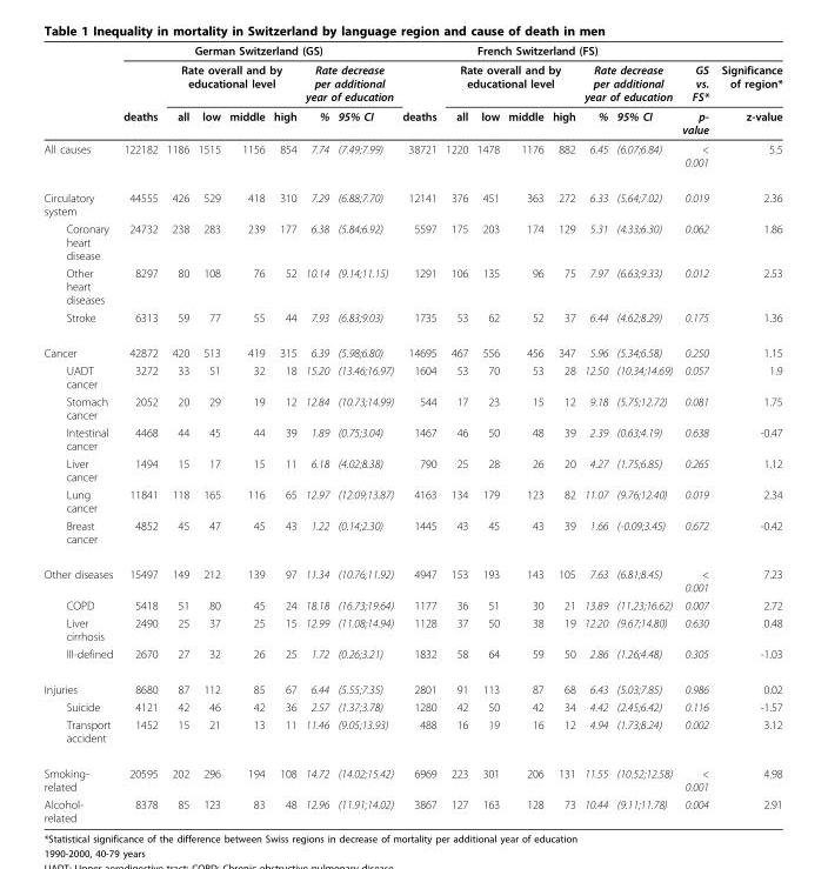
<table><thead><tr><td rowspan="3"></td><td colspan="7">German Switzerland (GS)</td><td colspan="7">French Switzerland (FS)</td><td rowspan="3">GS vs. FS* p- value</td><td rowspan="3">Significance of region* z-value</td></tr><tr><td rowspan="2">deaths</td><td colspan="4">Rate overall and by educational level</td><td colspan="2">Rate decrease per additional year of education</td><td rowspan="2">deaths</td><td colspan="4">Rate overall and by educational level</td><td colspan="2">Rate decrease per additional year of education</td></tr><tr><td>all</td><td>low</td><td>middle</td><td>high</td><td>%</td><td>95% CI</td><td>all</td><td>low</td><td>middle</td><td>high</td><td>%</td><td>95% CI</td></tr></thead><tbody><tr><td>All causes</td><td>122182</td><td>1186</td><td>1515</td><td>1156</td><td>854</td><td>7.74</td><td>(7.49;7.99)</td><td>38721</td><td>1220</td><td>1478</td><td>1176</td><td>882</td><td>6.45</td><td>(6.07;6.84)</td><td>&lt; 0.001</td><td>5.5</td></tr><tr><td>Circulatory system</td><td>44555</td><td>426</td><td>529</td><td>418</td><td>310</td><td>7.29</td><td>(6.88;7.70)</td><td>12141</td><td>376</td><td>451</td><td>363</td><td>272</td><td>6.33</td><td>(5.64;7.02)</td><td>0.019</td><td>2.36</td></tr><tr><td>Coronary heart disease</td><td>24732</td><td>238</td><td>283</td><td>239</td><td>177</td><td>6.38</td><td>(5.84;6.92)</td><td>5597</td><td>175</td><td>203</td><td>174</td><td>129</td><td>5.31</td><td>(4.33;6.30)</td><td>0.062</td><td>1.86</td></tr><tr><td>Other heart diseases</td><td>8297</td><td>80</td><td>108</td><td>76</td><td>52</td><td>10.14</td><td>(9.14;11.15)</td><td>1291</td><td>106</td><td>135</td><td>96</td><td>75</td><td>7.97</td><td>(6.63;9.33)</td><td>0.012</td><td>2.53</td></tr><tr><td>Stroke</td><td>6313</td><td>59</td><td>77</td><td>55</td><td>44</td><td>7.93</td><td>(6.83;9.03)</td><td>1735</td><td>53</td><td>62</td><td>52</td><td>37</td><td>6.44</td><td>(4.62;8.29)</td><td>0.175</td><td>1.36</td></tr><tr><td>Cancer</td><td>42872</td><td>420</td><td>513</td><td>419</td><td>315</td><td>6.39</td><td>(5.98;6.80)</td><td>14695</td><td>467</td><td>556</td><td>456</td><td>347</td><td>5.96</td><td>(5.34;6.58)</td><td>0.250</td><td>1.15</td></tr><tr><td>UADT cancer</td><td>3272</td><td>33</td><td>51</td><td>32</td><td>18</td><td>15.20</td><td>(13.46;16.97)</td><td>1604</td><td>53</td><td>70</td><td>53</td><td>28</td><td>12.50</td><td>(10.34;14.69)</td><td>0.057</td><td>1.9</td></tr><tr><td>Stomach cancer</td><td>2052</td><td>20</td><td>29</td><td>19</td><td>12</td><td>12.84</td><td>(10.73;14.99)</td><td>544</td><td>17</td><td>23</td><td>15</td><td>12</td><td>9.18</td><td>(5.75;12.72)</td><td>0.081</td><td>1.75</td></tr><tr><td>Intestinal cancer</td><td>4468</td><td>44</td><td>45</td><td>44</td><td>39</td><td>1.89</td><td>(0.75;3.04)</td><td>1467</td><td>46</td><td>50</td><td>48</td><td>39</td><td>2.39</td><td>(0.63;4.19)</td><td>0.638</td><td>-0.47</td></tr><tr><td>Liver cancer</td><td>1494</td><td>15</td><td>17</td><td>15</td><td>11</td><td>6.18</td><td>(4.02;8.38)</td><td>790</td><td>25</td><td>28</td><td>26</td><td>20</td><td>4.27</td><td>(1.75;6.85)</td><td>0.265</td><td>1.12</td></tr><tr><td>Lung cancer</td><td>11841</td><td>118</td><td>165</td><td>116</td><td>65</td><td>12.97</td><td>(12.09;13.87)</td><td>4163</td><td>134</td><td>179</td><td>123</td><td>82</td><td>11.07</td><td>(9.76;12.40)</td><td>0.019</td><td>2.34</td></tr><tr><td>Breast cancer</td><td>4852</td><td>45</td><td>47</td><td>45</td><td>43</td><td>1.22</td><td>(0.14;2.30)</td><td>1445</td><td>43</td><td>45</td><td>43</td><td>39</td><td>1.66</td><td>(-0.09;3.45)</td><td>0.672</td><td>-0.42</td></tr><tr><td>Other diseases</td><td>15497</td><td>149</td><td>212</td><td>139</td><td>97</td><td>11.34</td><td>(10.76;11.92)</td><td>4947</td><td>153</td><td>193</td><td>143</td><td>105</td><td>7.63</td><td>(6.81;8.45)</td><td>&lt; 0.001</td><td>7.23</td></tr><tr><td>COPD</td><td>5418</td><td>51</td><td>80</td><td>45</td><td>24</td><td>18.18</td><td>(16.73;19.64)</td><td>1177</td><td>36</td><td>51</td><td>30</td><td>21</td><td>13.89</td><td>(11.23;16.62)</td><td>0.007</td><td>2.72</td></tr><tr><td>Liver cirrhosis</td><td>2490</td><td>25</td><td>37</td><td>25</td><td>15</td><td>12.99</td><td>(11.08;14.94)</td><td>1128</td><td>37</td><td>50</td><td>38</td><td>19</td><td>12.20</td><td>(9.67;14.80)</td><td>0.630</td><td>0.48</td></tr><tr><td>Ill-defined</td><td>2670</td><td>27</td><td>32</td><td>26</td><td>25</td><td>1.72</td><td>(0.26;3.21)</td><td>1832</td><td>58</td><td>64</td><td>59</td><td>50</td><td>2.86</td><td>(1.26;4.48)</td><td>0.305</td><td>-1.03</td></tr><tr><td>Injuries</td><td>8680</td><td>87</td><td>112</td><td>85</td><td>67</td><td>6.44</td><td>(5.55;7.35)</td><td>2801</td><td>91</td><td>113</td><td>87</td><td>68</td><td>6.43</td><td>(5.03;7.85)</td><td>0.986</td><td>0.02</td></tr><tr><td>Suicide</td><td>4121</td><td>42</td><td>46</td><td>42</td><td>36</td><td>2.57</td><td>(1.37;3.78)</td><td>1280</td><td>42</td><td>50</td><td>42</td><td>34</td><td>4.42</td><td>(2.45;6.42)</td><td>0.116</td><td>-1.57</td></tr><tr><td>Transport accident</td><td>1452</td><td>15</td><td>21</td><td>13</td><td>11</td><td>11.46</td><td>(9.05;13.93)</td><td>488</td><td>16</td><td>19</td><td>16</td><td>12</td><td>4.94</td><td>(1.73;8.24)</td><td>0.002</td><td>3.12</td></tr><tr><td>Smoking- related</td><td>20595</td><td>202</td><td>296</td><td>194</td><td>108</td><td>14.72</td><td>(14.02;15.42)</td><td>6969</td><td>223</td><td>301</td><td>206</td><td>131</td><td>11.55</td><td>(10.52;12.58)</td><td>&lt; 0.001</td><td>4.98</td></tr><tr><td>Alcohol- related</td><td>8378</td><td>85</td><td>123</td><td>83</td><td>48</td><td>12.96</td><td>(11.91;14.02)</td><td>3867</td><td>127</td><td>163</td><td>128</td><td>73</td><td>10.44</td><td>(9.11;11.78)</td><td>0.004</td><td>2.91</td></tr></tbody></table>